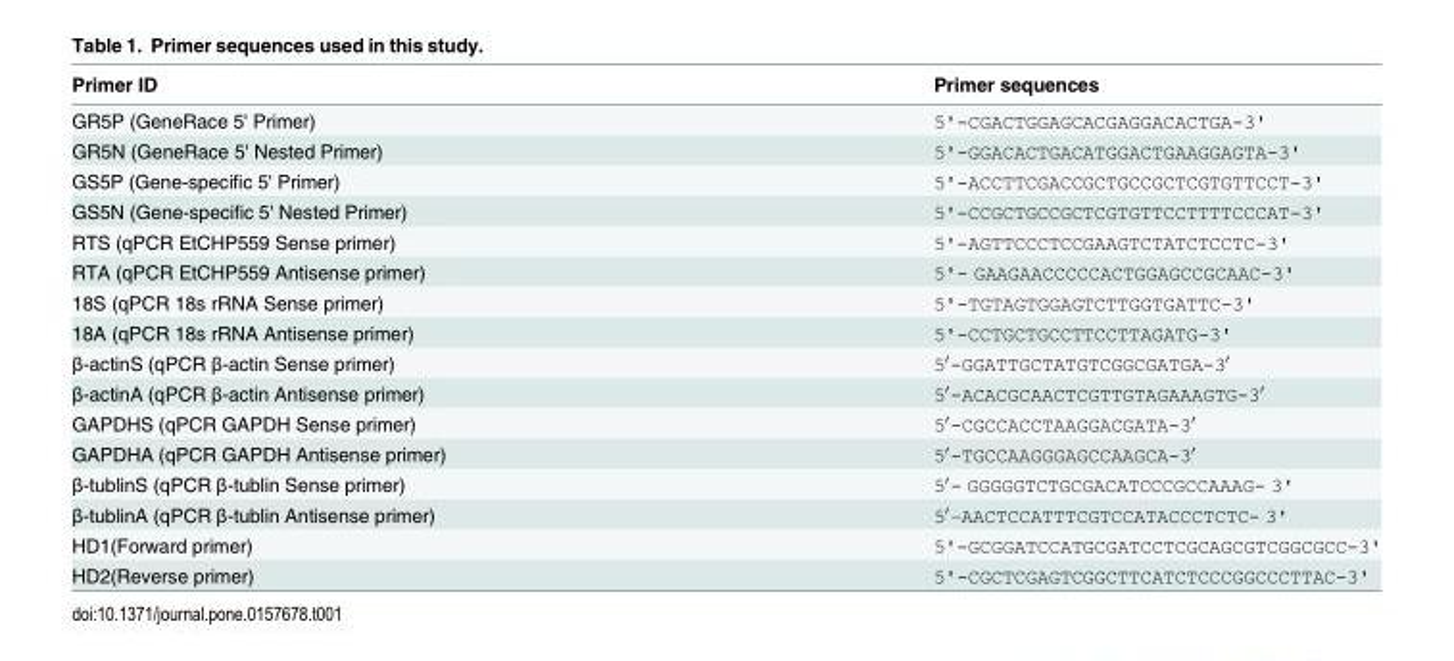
<table><thead><tr><td>Primer ID</td><td>Primer sequences</td></tr></thead><tbody><tr><td>GR5P (GeneRace 5&#x27; Primer)</td><td>5&#x27;-CGACTGGAGCACGAGGACACTGA-3&#x27;</td></tr><tr><td>GR5N (GeneRace 5&#x27; Nested Primer)</td><td>5&#x27;-GGACACTGACATGGACTGAAGGAGTA-3&#x27;</td></tr><tr><td>GS5P (Gene-specific 5&#x27; Primer)</td><td>5&#x27;-ACCTTCGACCGCTGCCGCTCGTGTTCCT-3&#x27;</td></tr><tr><td>GS5N (Gene-specific 5&#x27; Nested Primer)</td><td>5&#x27;-CCGCTGCCGCTCGTGTTCCTTTTCCCAT-3&#x27;</td></tr><tr><td>RTS (qPCR EtCHP559 Sense primer)</td><td>5&#x27;-AGTTCCCTCCGAAGTCTATCTCCTC-3&#x27;</td></tr><tr><td>RTA (qPCR EtCHP559 Antisense primer)</td><td>5&#x27;- GAAGAACCCCCACTGGAGCCGCAAC-3&#x27;</td></tr><tr><td>18S (qPCR 18s rRNA Sense primer)</td><td>5&#x27;-TGTAGTGGAGTCTTGGTGATTC-3&#x27;</td></tr><tr><td>18A (qPCR 18s rRNA Antisense primer)</td><td>5&#x27;-CCTGCTGCCTTCCTTAGATG-3&#x27;</td></tr><tr><td>β-actinS (qPCR β-actin Sense primer)</td><td>5′-GGATTGCTATGTCGGCGATGA-3′</td></tr><tr><td>β-actinA (qPCR β-actin Antisense primer)</td><td>5′-ACACGCAACTCGTTGTAGAAAGTG-3′</td></tr><tr><td>GAPDHS (qPCR GAPDH Sense primer)</td><td>5′-CGCCACCTAAGGACGATA-3′</td></tr><tr><td>GAPDHA (qPCR GAPDH Antisense primer)</td><td>5′-TGCCAAGGGAGCCAAGCA-3′</td></tr><tr><td>β-tublinS (qPCR β-tublin Sense primer)</td><td>5′- GGGGGTCTGCGACATCCCGCCAAAG- 3&#x27;</td></tr><tr><td>β-tublinA (qPCR β-tublin Antisense primer)</td><td>5′–AACTCCATTTCGTCCATACCCTCTC- 3&#x27;</td></tr><tr><td>HD1(Forward primer)</td><td>5&#x27;-GCGGATCCATGCGATCCTCGCAGCGTCGGCGCC-3&#x27;</td></tr><tr><td>HD2(Reverse primer)</td><td>5&#x27;-CGCTCGAGTCGGCTTCATCTCCCGGCCCTTAC-3&#x27;</td></tr></tbody></table>